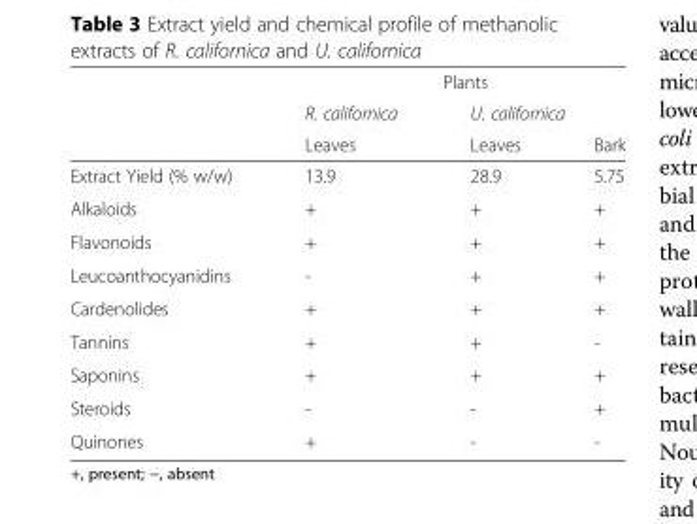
<table><thead><tr><td rowspan="3"></td><td colspan="3">Plants</td></tr><tr><td rowspan="2">R. californica Leaves</td><td colspan="2">U. californica</td></tr><tr><td>Leaves</td><td>Bark</td></tr></thead><tbody><tr><td>Extract Yield (% w/w)</td><td>13.9</td><td>28.9</td><td>5.75</td></tr><tr><td>Alkaloids</td><td>+</td><td>+</td><td>+</td></tr><tr><td>Flavonoids</td><td>+</td><td>+</td><td>+</td></tr><tr><td>Leucoanthocyanidins</td><td>-</td><td>+</td><td>+</td></tr><tr><td>Cardenolides</td><td>+</td><td>+</td><td>+</td></tr><tr><td>Tannins</td><td>+</td><td>+</td><td>-</td></tr><tr><td>Saponins</td><td>+</td><td>+</td><td>+</td></tr><tr><td>Steroids</td><td>-</td><td>-</td><td>+</td></tr><tr><td>Quinones</td><td>+</td><td>-</td><td>-</td></tr></tbody></table>